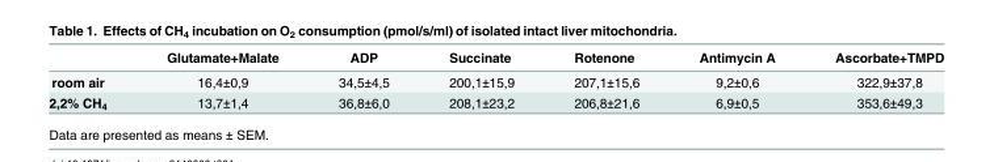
<table><thead><tr><td></td><td>Glutamate+Malate</td><td>ADP</td><td>Succinate</td><td>Rotenone</td><td>Antimycin A</td><td>Ascorbate+TMPD</td></tr></thead><tbody><tr><td>room air</td><td>16,4±0,9</td><td>34,5±4,5</td><td>200,1±15,9</td><td>207,1±15,6</td><td>9,2±0,6</td><td>322,9±37,8</td></tr><tr><td>2,2% CH<sub>4</sub></td><td>13,7±1,4</td><td>36,8±6,0</td><td>208,1±23,2</td><td>206,8±21,6</td><td>6,9±0,5</td><td>353,6±49,3</td></tr></tbody></table>